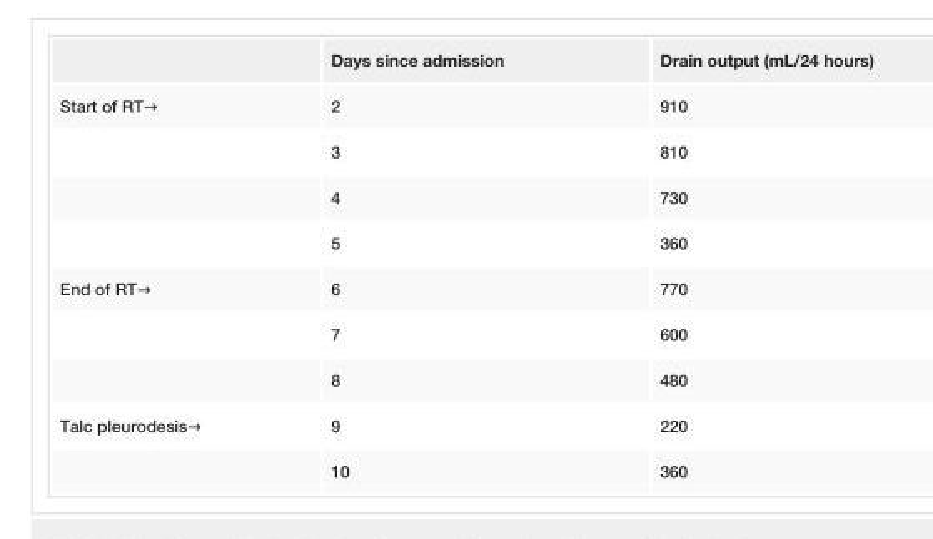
<table><thead><tr><td></td><td>Days since admission</td><td>Drain output (mL/24 hours)</td></tr></thead><tbody><tr><td rowspan="4">Start of RT→</td><td>2</td><td>910</td></tr><tr><td>3</td><td>810</td></tr><tr><td>4</td><td>730</td></tr><tr><td>5</td><td>360</td></tr><tr><td rowspan="3">End of RT→</td><td>6</td><td>770</td></tr><tr><td>7</td><td>600</td></tr><tr><td>8</td><td>480</td></tr><tr><td rowspan="2">Talc pleurodesis→</td><td>9</td><td>220</td></tr><tr><td>10</td><td>360</td></tr></tbody></table>